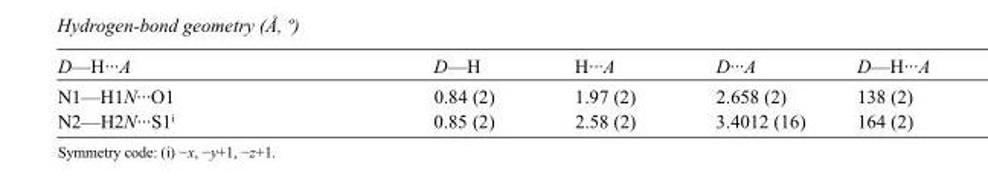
<table><tbody><tr><td>D—H···A</td><td>D—H</td><td>H···A</td><td>D···A</td><td>D—H···A</td></tr><tr><td>N1—H1N···O1</td><td>0.84 (2)</td><td>1.97 (2)</td><td>2.658 (2)</td><td>138 (2)</td></tr><tr><td>N2—H2N···S1<sup>i</sup></td><td>0.85 (2)</td><td>2.58 (2)</td><td>3.4012 (16)</td><td>164 (2)</td></tr></tbody></table>